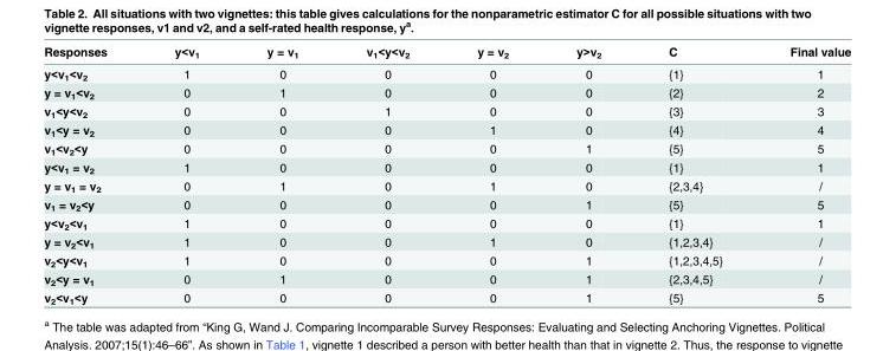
<table><thead><tr><td>Responses</td><td>y&lt;v<sub>1</sub></td><td>y = v<sub>1</sub></td><td>v<sub>1</sub>&lt;y&lt;v<sub>2</sub></td><td>y = v<sub>2</sub></td><td>y&gt;v<sub>2</sub></td><td>C</td><td>Final value</td></tr></thead><tbody><tr><td>y&lt;v<sub>1</sub>&lt;v<sub>2</sub></td><td>1</td><td>0</td><td>0</td><td>0</td><td>0</td><td>{1}</td><td>1</td></tr><tr><td>y = v<sub>1</sub>&lt;v<sub>2</sub></td><td>0</td><td>1</td><td>0</td><td>0</td><td>0</td><td>{2}</td><td>2</td></tr><tr><td>v<sub>1</sub>&lt;y&lt;v<sub>2</sub></td><td>0</td><td>0</td><td>1</td><td>0</td><td>0</td><td>{3}</td><td>3</td></tr><tr><td>v<sub>1</sub>&lt;y = v<sub>2</sub></td><td>0</td><td>0</td><td>0</td><td>1</td><td>0</td><td>{4}</td><td>4</td></tr><tr><td>v<sub>1</sub>&lt;v<sub>2</sub>&lt;y</td><td>0</td><td>0</td><td>0</td><td>0</td><td>1</td><td>{5}</td><td>5</td></tr><tr><td>y&lt;v<sub>1</sub> = v<sub>2</sub></td><td>1</td><td>0</td><td>0</td><td>0</td><td>0</td><td>{1}</td><td>1</td></tr><tr><td>y = v<sub>1</sub> = v<sub>2</sub></td><td>0</td><td>1</td><td>0</td><td>1</td><td>0</td><td>{2,3,4}</td><td>/</td></tr><tr><td>v<sub>1</sub> = v<sub>2</sub>&lt;y</td><td>0</td><td>0</td><td>0</td><td>0</td><td>1</td><td>{5}</td><td>5</td></tr><tr><td>y&lt;v<sub>2</sub>&lt;v<sub>1</sub></td><td>1</td><td>0</td><td>0</td><td>0</td><td>0</td><td>{1}</td><td>1</td></tr><tr><td>y = v<sub>2</sub>&lt;v<sub>1</sub></td><td>1</td><td>0</td><td>0</td><td>1</td><td>0</td><td>{1,2,3,4}</td><td>/</td></tr><tr><td>v<sub>2</sub>&lt;y&lt;v<sub>1</sub></td><td>1</td><td>0</td><td>0</td><td>0</td><td>1</td><td>{1,2,3,4,5}</td><td>/</td></tr><tr><td>v<sub>2</sub>&lt;y = v<sub>1</sub></td><td>0</td><td>1</td><td>0</td><td>0</td><td>1</td><td>{2,3,4,5}</td><td>/</td></tr><tr><td>v<sub>2</sub>&lt;v<sub>1</sub>&lt;y</td><td>0</td><td>0</td><td>0</td><td>0</td><td>1</td><td>{5}</td><td>5</td></tr></tbody></table>